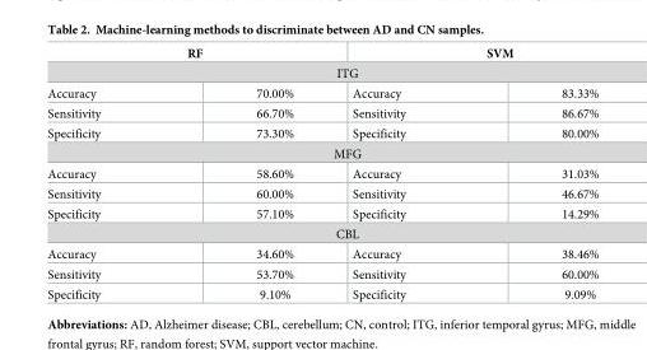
<table><thead><tr><td colspan="2">RF</td><td colspan="2">SVM</td></tr><tr><td colspan="4">ITG</td></tr><tr><td>Accuracy</td><td>70.00%</td><td>Accuracy</td><td>83.33%</td></tr></thead><tbody><tr><td>Sensitivity</td><td>66.70%</td><td>Sensitivity</td><td>86.67%</td></tr><tr><td>Specificity</td><td>73.30%</td><td>Specificity</td><td>80.00%</td></tr><tr><td colspan="4">MFG</td></tr><tr><td>Accuracy</td><td>58.60%</td><td>Accuracy</td><td>31.03%</td></tr><tr><td>Sensitivity</td><td>60.00%</td><td>Sensitivity</td><td>46.67%</td></tr><tr><td>Specificity</td><td>57.10%</td><td>Specificity</td><td>14.29%</td></tr><tr><td colspan="4">CBL</td></tr><tr><td>Accuracy</td><td>34.60%</td><td>Accuracy</td><td>38.46%</td></tr><tr><td>Sensitivity</td><td>53.70%</td><td>Sensitivity</td><td>60.00%</td></tr><tr><td>Specificity</td><td>9.10%</td><td>Specificity</td><td>9.09%</td></tr></tbody></table>